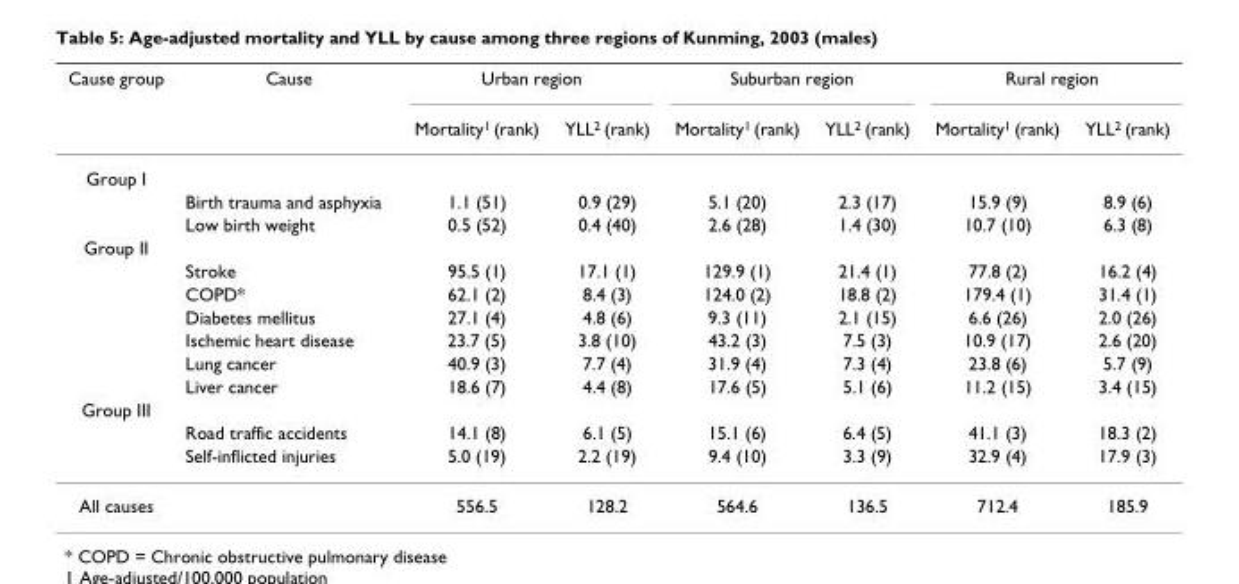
<table><thead><tr><td rowspan="2">Cause group</td><td rowspan="2">Cause</td><td colspan="2">Urban region</td><td colspan="2">Suburban region</td><td colspan="2">Rural region</td></tr><tr><td>Mortality<sup>1</sup> (rank)</td><td>YLL<sup>2</sup> (rank)</td><td>Mortality<sup>1</sup> (rank)</td><td>YLL<sup>2</sup> (rank)</td><td>Mortality<sup>1</sup> (rank)</td><td>YLL<sup>2</sup> (rank)</td></tr></thead><tbody><tr><td colspan="8">Group I</td></tr><tr><td></td><td>Birth trauma and asphyxia</td><td>1.1 (51)</td><td>0.9 (29)</td><td>5.1 (20)</td><td>2.3 (17)</td><td>15.9 (9)</td><td>8.9 (6)</td></tr><tr><td></td><td>Low birth weight</td><td>0.5 (52)</td><td>0.4 (40)</td><td>2.6 (28)</td><td>1.4 (30)</td><td>10.7 (10)</td><td>6.3 (8)</td></tr><tr><td colspan="8">Group II</td></tr><tr><td></td><td>Stroke</td><td>95.5 (1)</td><td>17.1 (1)</td><td>129.9 (1)</td><td>21.4 (1)</td><td>77.8 (2)</td><td>16.2 (4)</td></tr><tr><td></td><td>COPD*</td><td>62.1 (2)</td><td>8.4 (3)</td><td>124.0 (2)</td><td>18.8 (2)</td><td>179.4 (1)</td><td>31.4 (1)</td></tr><tr><td></td><td>Diabetes mellitus</td><td>27.1 (4)</td><td>4.8 (6)</td><td>9.3 (11)</td><td>2.1 (15)</td><td>6.6 (26)</td><td>2.0 (26)</td></tr><tr><td></td><td>Ischemic heart disease</td><td>23.7 (5)</td><td>3.8 (10)</td><td>43.2 (3)</td><td>7.5 (3)</td><td>10.9 (17)</td><td>2.6 (20)</td></tr><tr><td></td><td>Lung cancer</td><td>40.9 (3)</td><td>7.7 (4)</td><td>31.9 (4)</td><td>7.3 (4)</td><td>23.8 (6)</td><td>5.7 (9)</td></tr><tr><td></td><td>Liver cancer</td><td>18.6 (7)</td><td>4.4 (8)</td><td>17.6 (5)</td><td>5.1 (6)</td><td>11.2 (15)</td><td>3.4 (15)</td></tr><tr><td colspan="8">Group III</td></tr><tr><td></td><td>Road traffic accidents</td><td>14.1 (8)</td><td>6.1 (5)</td><td>15.1 (6)</td><td>6.4 (5)</td><td>41.1 (3)</td><td>18.3 (2)</td></tr><tr><td></td><td>Self-inflicted injuries</td><td>5.0 (19)</td><td>2.2 (19)</td><td>9.4 (10)</td><td>3.3 (9)</td><td>32.9 (4)</td><td>17.9 (3)</td></tr><tr><td>All causes</td><td></td><td>556.5</td><td>128.2</td><td>564.6</td><td>136.5</td><td>712.4</td><td>185.9</td></tr></tbody></table>